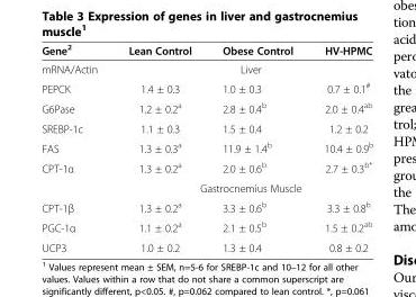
<table><thead><tr><td>Gene<sup>2</sup></td><td>Lean Control</td><td>Obese Control</td><td>HV-HPMC</td></tr></thead><tbody><tr><td>mRNA/Actin</td><td colspan="3">Liver</td></tr><tr><td>PEPCK</td><td>1.4 ± 0.3</td><td>1.0 ± 0.3</td><td>0.7 ± 0.1<sup>#</sup></td></tr><tr><td>G6Pase</td><td>1.2 ± 0.2<sup>a</sup></td><td>2.8 ± 0.4<sup>b</sup></td><td>2.0 ± 0.4<sup>ab</sup></td></tr><tr><td>SREBP-1c</td><td>1.1 ± 0.3</td><td>1.5 ± 0.4</td><td>1.2 ± 0.2</td></tr><tr><td>FAS</td><td>1.3 ± 0.3<sup>a</sup></td><td>11.9 ± 1.4<sup>b</sup></td><td>10.4 ± 0.9<sup>b</sup></td></tr><tr><td rowspan="2">CPT-1α</td><td>1.3 ± 0.2<sup>a</sup></td><td>2.0 ± 0.6<sup>b</sup></td><td>2.7 ± 0.3<sup>b*</sup></td></tr><tr><td colspan="3">Gastrocnemius Muscle</td></tr><tr><td>CPT-1β</td><td>1.3 ± 0.2<sup>a</sup></td><td>3.3 ± 0.6<sup>b</sup></td><td>3.3 ± 0.8<sup>b</sup></td></tr><tr><td>PGC-1α</td><td>1.1 ± 0.2<sup>a</sup></td><td>2.1 ± 0.5<sup>b</sup></td><td>1.5 ± 0.2<sup>ab</sup></td></tr><tr><td>UCP3</td><td>1.0 ± 0.2</td><td>1.3 ± 0.4</td><td>0.8 ± 0.2</td></tr></tbody></table>